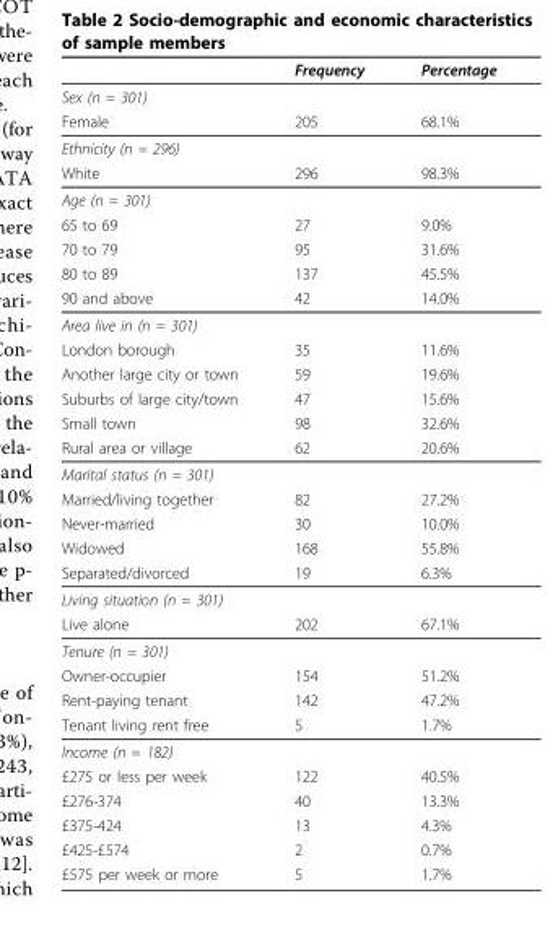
<table><thead><tr><td></td><td>Frequency</td><td>Percentage</td></tr></thead><tbody><tr><td colspan="3">Sex (n = 301)</td></tr><tr><td>Female</td><td>205</td><td>68.1%</td></tr><tr><td colspan="3">Ethnicity (n = 296)</td></tr><tr><td>White</td><td>296</td><td>98.3%</td></tr><tr><td colspan="3">Age (n = 301)</td></tr><tr><td>65 to 69</td><td>27</td><td>9.0%</td></tr><tr><td>70 to 79</td><td>95</td><td>31.6%</td></tr><tr><td>80 to 89</td><td>137</td><td>45.5%</td></tr><tr><td>90 and above</td><td>42</td><td>14.0%</td></tr><tr><td colspan="3">Area live in (n = 301)</td></tr><tr><td>London borough</td><td>35</td><td>11.6%</td></tr><tr><td>Another large city or town</td><td>59</td><td>19.6%</td></tr><tr><td>Suburbs of large city/town</td><td>47</td><td>15.6%</td></tr><tr><td>Small town</td><td>98</td><td>32.6%</td></tr><tr><td>Rural area or village</td><td>62</td><td>20.6%</td></tr><tr><td colspan="3">Marital status (n = 301)</td></tr><tr><td>Married/living together</td><td>82</td><td>27.2%</td></tr><tr><td>Never-married</td><td>30</td><td>10.0%</td></tr><tr><td>Widowed</td><td>168</td><td>55.8%</td></tr><tr><td>Separated/divorced</td><td>19</td><td>6.3%</td></tr><tr><td colspan="3">Living situation (n = 301)</td></tr><tr><td>Live alone</td><td>202</td><td>67.1%</td></tr><tr><td colspan="3">Tenure (n = 301)</td></tr><tr><td>Owner-occupier</td><td>154</td><td>51.2%</td></tr><tr><td>Rent-paying tenant</td><td>142</td><td>47.2%</td></tr><tr><td>Tenant living rent free</td><td>5</td><td>1.7%</td></tr><tr><td colspan="3">Income (n = 182)</td></tr><tr><td>£275 or less per week</td><td>122</td><td>40.5%</td></tr><tr><td>£276-374</td><td>40</td><td>13.3%</td></tr><tr><td>£375-424</td><td>13</td><td>4.3%</td></tr><tr><td>£425-£574</td><td>2</td><td>0.7%</td></tr><tr><td>£575 per week or more</td><td>5</td><td>1.7%</td></tr></tbody></table>